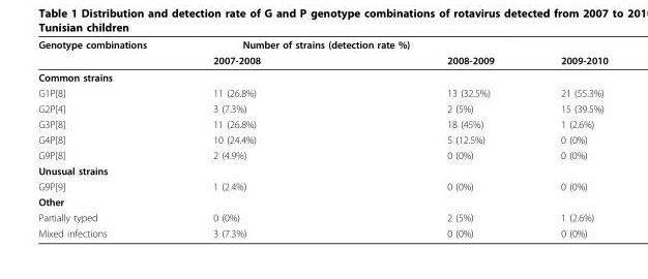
<table><thead><tr><td rowspan="2">Genotype combinations</td><td rowspan="2">Number of strains (detection rate %) 2007-2008</td><td rowspan="2">2008-2009</td><td rowspan="2">2009-2010</td></tr><tr></tr></thead><tbody><tr><td colspan="4">Common strains</td></tr><tr><td>G1P[8]</td><td>11 (26.8%)</td><td>13 (32.5%)</td><td>21 (55.3%)</td></tr><tr><td>G2P[4]</td><td>3 (7.3%)</td><td>2 (5%)</td><td>15 (39.5%)</td></tr><tr><td>G3P[8]</td><td>11 (26.8%)</td><td>18 (45%)</td><td>1 (2.6%)</td></tr><tr><td>G4P[8]</td><td>10 (24.4%)</td><td>5 (12.5%)</td><td>0 (0%)</td></tr><tr><td>G9P[8]</td><td>2 (4.9%)</td><td>0 (0%)</td><td>0 (0%)</td></tr><tr><td colspan="4">Unusual strains</td></tr><tr><td>G9P[9]</td><td>1 (2.4%)</td><td>0 (0%)</td><td>0 (0%)</td></tr><tr><td colspan="4">Other</td></tr><tr><td>Partially typed</td><td>0 (0%)</td><td>2 (5%)</td><td>1 (2.6%)</td></tr><tr><td>Mixed infections</td><td>3 (7.3%)</td><td>0 (0%)</td><td>0 (0%)</td></tr></tbody></table>